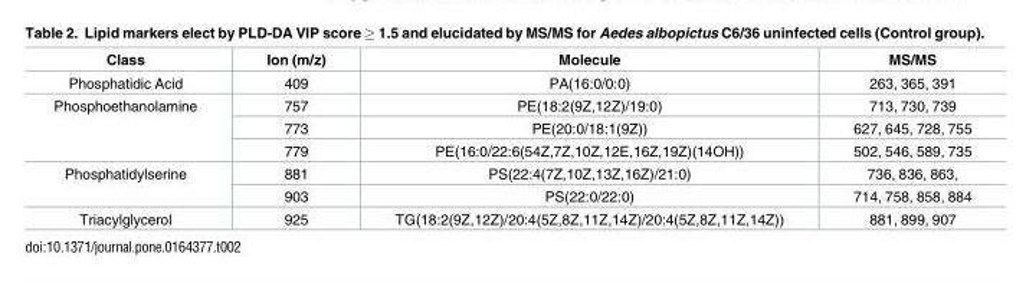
<table><thead><tr><td>Class</td><td>Ion (m/z)</td><td>Molecule</td><td>MS/MS</td></tr></thead><tbody><tr><td>Phosphatidic Acid</td><td>409</td><td>PA(16:0/0:0)</td><td>263, 365, 391</td></tr><tr><td rowspan="3">Phosphoethanolamine</td><td>757</td><td>PE(18:2(9Z,12Z)/19:0)</td><td>713, 730, 739</td></tr><tr><td>773</td><td>PE(20:0/18:1(9Z))</td><td>627, 645, 728, 755</td></tr><tr><td>779</td><td>PE(16:0/22:6(54Z,7Z,10Z,12E,16Z,19Z)(14OH))</td><td>502, 546, 589, 735</td></tr><tr><td rowspan="2">Phosphatidylserine</td><td>881</td><td>PS(22:4(7Z,10Z,13Z,16Z)/21:0)</td><td>736, 836, 863,</td></tr><tr><td>903</td><td>PS(22:0/22:0)</td><td>714, 758, 858, 884</td></tr><tr><td>Triacylglycerol</td><td>925</td><td>TG(18:2(9Z,12Z)/20:4(5Z,8Z,11Z,14Z)/20:4(5Z,8Z,11Z,14Z))</td><td>881, 899, 907</td></tr></tbody></table>